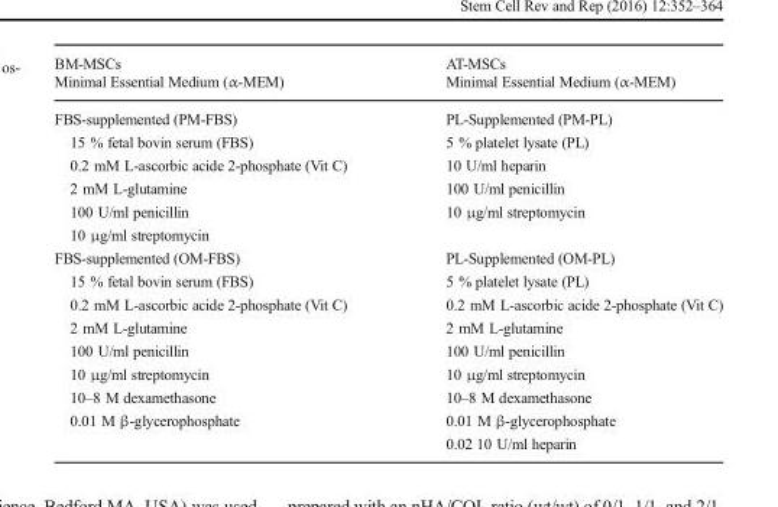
<table><thead><tr><td rowspan="2">BM-MSCs Minimal Essential Medium (α-MEM)</td><td rowspan="2">AT-MSCs Minimal Essential Medium (α-MEM)</td></tr><tr></tr></thead><tbody><tr><td>FBS-supplemented (PM-FBS)</td><td>PL-Supplemented (PM-PL)</td></tr><tr><td>15 % fetal bovin serum (FBS)</td><td>5 % platelet lysate (PL)</td></tr><tr><td>0.2 mM L-ascorbic acide 2-phosphate (Vit C)</td><td>10 U/ml heparin</td></tr><tr><td>2 mM L-glutamine</td><td>100 U/ml penicillin</td></tr><tr><td>100 U/ml penicillin</td><td>10 μg/ml streptomycin</td></tr><tr><td colspan="2">10 μg/ml streptomycin</td></tr><tr><td>FBS-supplemented (OM-FBS)</td><td>PL-Supplemented (OM-PL)</td></tr><tr><td>15 % fetal bovin serum (FBS)</td><td>5 % platelet lysate (PL)</td></tr><tr><td>0.2 mM L-ascorbic acide 2-phosphate (Vit C)</td><td>0.2 mM L-ascorbic acide 2-phosphate (Vit C)</td></tr><tr><td>2 mM L-glutamine</td><td>2 mM L-glutamine</td></tr><tr><td>100 U/ml penicillin</td><td>100 U/ml penicillin</td></tr><tr><td>10 μg/ml streptomycin</td><td>10 μg/ml streptomycin</td></tr><tr><td>10–8 M dexamethasone</td><td>10–8 M dexamethasone</td></tr><tr><td rowspan="2">0.01 M β-glycerophosphate</td><td>0.01 M β-glycerophosphate</td></tr><tr><td>0.02 10 U/ml heparin</td></tr></tbody></table>